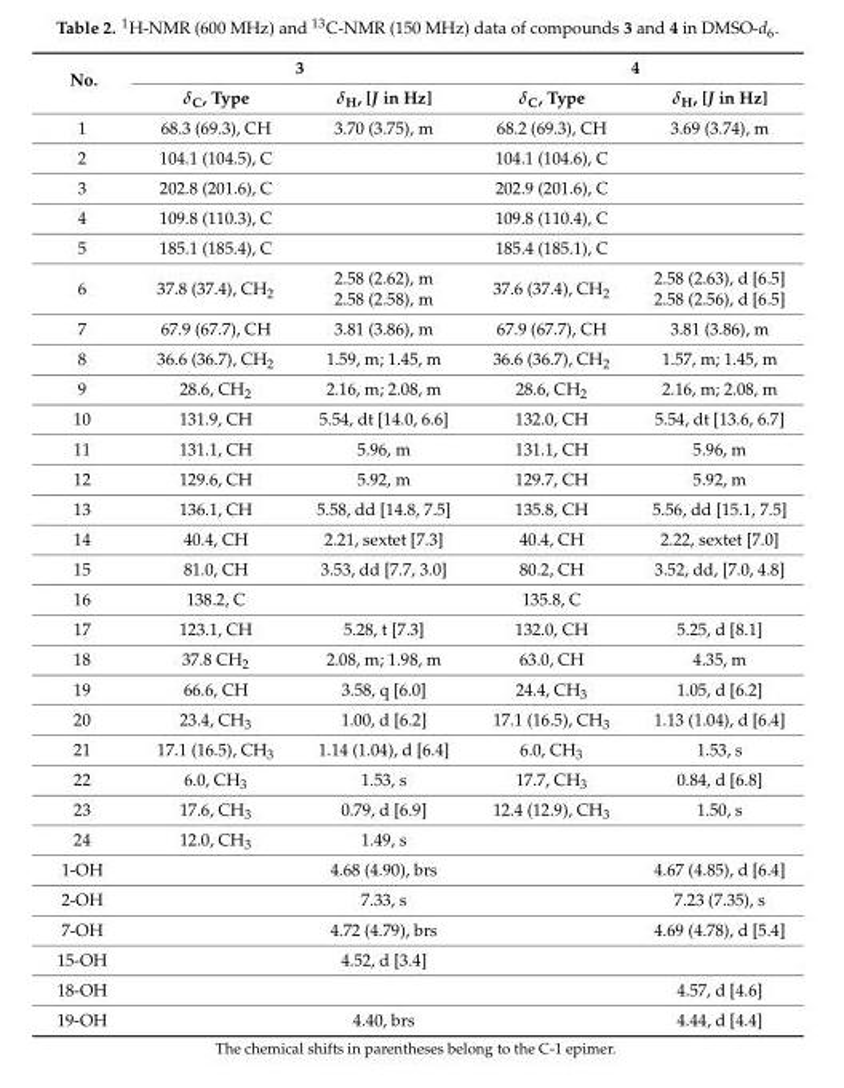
<table><thead><tr><td rowspan="2">No.</td><td colspan="2">3</td><td colspan="2">4</td></tr><tr><td>δ<sub>C</sub>, Type</td><td>δ<sub>H</sub>, [J in Hz]</td><td>δ<sub>C</sub>, Type</td><td>δ<sub>H</sub>, [J in Hz]</td></tr></thead><tbody><tr><td>1</td><td>68.3 (69.3), CH</td><td>3.70 (3.75), m</td><td>68.2 (69.3), CH</td><td>3.69 (3.74), m</td></tr><tr><td>2</td><td>104.1 (104.5), C</td><td></td><td>104.1 (104.6), C</td><td></td></tr><tr><td>3</td><td>202.8 (201.6), C</td><td></td><td>202.9 (201.6), C</td><td></td></tr><tr><td>4</td><td>109.8 (110.3), C</td><td></td><td>109.8 (110.4), C</td><td></td></tr><tr><td>5</td><td>185.1 (185.4), C</td><td></td><td>185.4 (185.1), C</td><td></td></tr><tr><td>6</td><td>37.8 (37.4), CH<sub>2</sub></td><td>2.58 (2.62), m 2.58 (2.58), m</td><td>37.6 (37.4), CH<sub>2</sub></td><td>2.58 (2.63), d [6.5] 2.58 (2.56), d [6.5]</td></tr><tr><td>7</td><td>67.9 (67.7), CH</td><td>3.81 (3.86), m</td><td>67.9 (67.7), CH</td><td>3.81 (3.86), m</td></tr><tr><td>8</td><td>36.6 (36.7), CH<sub>2</sub></td><td>1.59, m; 1.45, m</td><td>36.6 (36.7), CH<sub>2</sub></td><td>1.57, m; 1.45, m</td></tr><tr><td>9</td><td>28.6, CH<sub>2</sub></td><td>2.16, m; 2.08, m</td><td>28.6, CH<sub>2</sub></td><td>2.16, m; 2.08, m</td></tr><tr><td>10</td><td>131.9, CH</td><td>5.54, dt [14.0, 6.6]</td><td>132.0, CH</td><td>5.54, dt [13.6, 6.7]</td></tr><tr><td>11</td><td>131.1, CH</td><td>5.96, m</td><td>131.1, CH</td><td>5.96, m</td></tr><tr><td>12</td><td>129.6, CH</td><td>5.92, m</td><td>129.7, CH</td><td>5.92, m</td></tr><tr><td>13</td><td>136.1, CH</td><td>5.58, dd [14.8, 7.5]</td><td>135.8, CH</td><td>5.56, dd [15.1, 7.5]</td></tr><tr><td>14</td><td>40.4, CH</td><td>2.21, sextet [7.3]</td><td>40.4, CH</td><td>2.22, sextet [7.0]</td></tr><tr><td>15</td><td>81.0, CH</td><td>3.53, dd [7.7, 3.0]</td><td>80.2, CH</td><td>3.52, dd, [7.0, 4.8]</td></tr><tr><td>16</td><td>138.2, C</td><td></td><td>135.8, C</td><td></td></tr><tr><td>17</td><td>123.1, CH</td><td>5.28, t [7.3]</td><td>132.0, CH</td><td>5.25, d [8.1]</td></tr><tr><td>18</td><td>37.8 CH<sub>2</sub></td><td>2.08, m; 1.98, m</td><td>63.0, CH</td><td>4.35, m</td></tr><tr><td>19</td><td>66.6, CH</td><td>3.58, q [6.0]</td><td>24.4, CH<sub>3</sub></td><td>1.05, d [6.2]</td></tr><tr><td>20</td><td>23.4, CH<sub>3</sub></td><td>1.00, d [6.2]</td><td>17.1 (16.5), CH<sub>3</sub></td><td>1.13 (1.04), d [6.4]</td></tr><tr><td>21</td><td>17.1 (16.5), CH<sub>3</sub></td><td>1.14 (1.04), d [6.4]</td><td>6.0, CH<sub>3</sub></td><td>1.53, s</td></tr><tr><td>22</td><td>6.0, CH<sub>3</sub></td><td>1.53, s</td><td>17.7, CH<sub>3</sub></td><td>0.84, d [6.8]</td></tr><tr><td>23</td><td>17.6, CH<sub>3</sub></td><td>0.79, d [6.9]</td><td>12.4 (12.9), CH<sub>3</sub></td><td>1.50, s</td></tr><tr><td>24</td><td>12.0, CH<sub>3</sub></td><td>1.49, s</td><td></td><td></td></tr><tr><td>1-OH</td><td></td><td>4.68 (4.90), brs</td><td></td><td>4.67 (4.85), d [6.4]</td></tr><tr><td>2-OH</td><td></td><td>7.33, s</td><td></td><td>7.23 (7.35), s</td></tr><tr><td>7-OH</td><td></td><td>4.72 (4.79), brs</td><td></td><td>4.69 (4.78), d [5.4]</td></tr><tr><td>15-OH</td><td></td><td>4.52, d [3.4]</td><td></td><td></td></tr><tr><td>18-OH</td><td></td><td></td><td></td><td>4.57, d [4.6]</td></tr><tr><td>19-OH</td><td></td><td>4.40, brs</td><td></td><td>4.44, d [4.4]</td></tr></tbody></table>